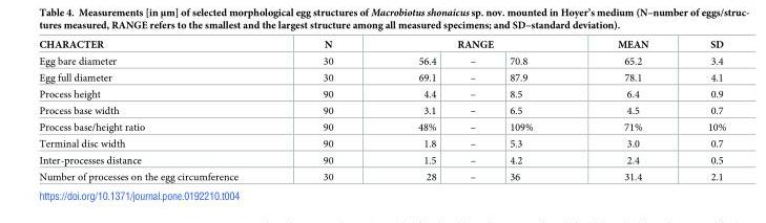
<table><thead><tr><td rowspan="2">CHARACTER Egg bare diameter</td><td rowspan="2">N 30</td><td colspan="3">RANGE</td><td rowspan="2">MEAN 65.2</td><td rowspan="2">SD 3.4</td></tr><tr><td>56.4</td><td>–</td><td>70.8</td></tr></thead><tbody><tr><td>Egg full diameter</td><td>30</td><td>69.1</td><td>–</td><td>87.9</td><td>78.1</td><td>4.1</td></tr><tr><td>Process height</td><td>90</td><td>4.4</td><td>–</td><td>8.5</td><td>6.4</td><td>0.9</td></tr><tr><td>Process base width</td><td>90</td><td>3.1</td><td>–</td><td>6.5</td><td>4.5</td><td>0.7</td></tr><tr><td>Process base/height ratio</td><td>90</td><td>48%</td><td>–</td><td>109%</td><td>71%</td><td>10%</td></tr><tr><td>Terminal disc width</td><td>90</td><td>1.8</td><td>–</td><td>5.3</td><td>3.0</td><td>0.7</td></tr><tr><td>Inter-processes distance</td><td>90</td><td>1.5</td><td>–</td><td>4.2</td><td>2.4</td><td>0.5</td></tr><tr><td>Number of processes on the egg circumference</td><td>30</td><td>28</td><td>–</td><td>36</td><td>31.4</td><td>2.1</td></tr></tbody></table>